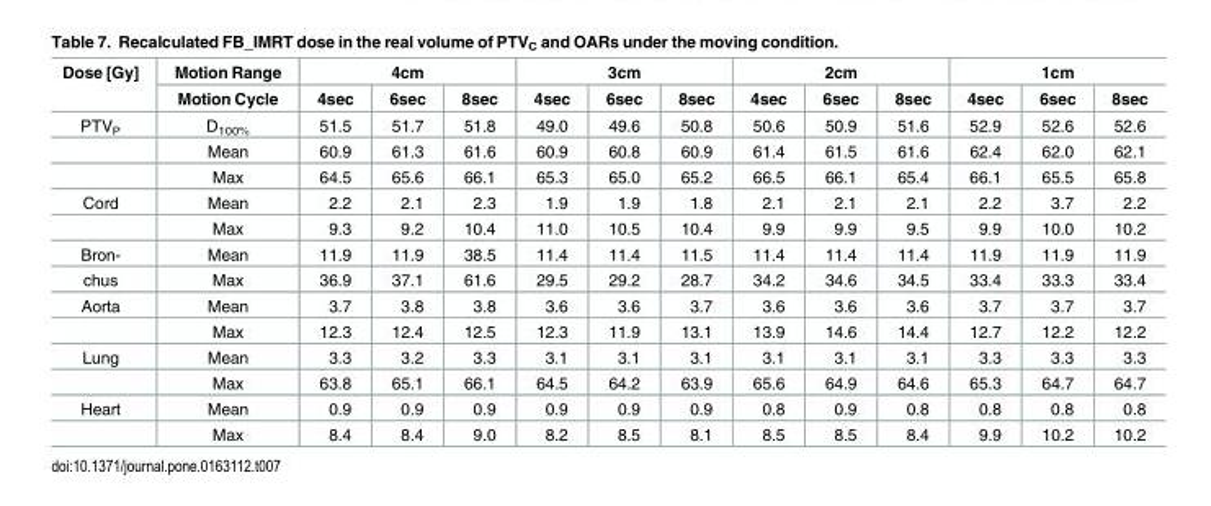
<table><thead><tr><td rowspan="2">Dose [Gy]</td><td rowspan="2">Motion Range Motion Cycle</td><td colspan="3">4cm</td><td colspan="3">3cm</td><td colspan="3">2cm</td><td colspan="3">1cm</td></tr><tr><td>4sec</td><td>6sec</td><td>8sec</td><td>4sec</td><td>6sec</td><td>8sec</td><td>4sec</td><td>6sec</td><td>8sec</td><td>4sec</td><td>6sec</td><td>8sec</td></tr></thead><tbody><tr><td rowspan="3">PTV<sub>P</sub></td><td>D<sub>100%</sub></td><td>51.5</td><td>51.7</td><td>51.8</td><td>49.0</td><td>49.6</td><td>50.8</td><td>50.6</td><td>50.9</td><td>51.6</td><td>52.9</td><td>52.6</td><td>52.6</td></tr><tr><td>Mean</td><td>60.9</td><td>61.3</td><td>61.6</td><td>60.9</td><td>60.8</td><td>60.9</td><td>61.4</td><td>61.5</td><td>61.6</td><td>62.4</td><td>62.0</td><td>62.1</td></tr><tr><td>Max</td><td>64.5</td><td>65.6</td><td>66.1</td><td>65.3</td><td>65.0</td><td>65.2</td><td>66.5</td><td>66.1</td><td>65.4</td><td>66.1</td><td>65.5</td><td>65.8</td></tr><tr><td rowspan="2">Cord</td><td>Mean</td><td>2.2</td><td>2.1</td><td>2.3</td><td>1.9</td><td>1.9</td><td>1.8</td><td>2.1</td><td>2.1</td><td>2.1</td><td>2.2</td><td>3.7</td><td>2.2</td></tr><tr><td>Max</td><td>9.3</td><td>9.2</td><td>10.4</td><td>11.0</td><td>10.5</td><td>10.4</td><td>9.9</td><td>9.9</td><td>9.5</td><td>9.9</td><td>10.0</td><td>10.2</td></tr><tr><td>Bron-</td><td>Mean</td><td>11.9</td><td>11.9</td><td>38.5</td><td>11.4</td><td>11.4</td><td>11.5</td><td>11.4</td><td>11.4</td><td>11.4</td><td>11.9</td><td>11.9</td><td>11.9</td></tr><tr><td>chus</td><td>Max</td><td>36.9</td><td>37.1</td><td>61.6</td><td>29.5</td><td>29.2</td><td>28.7</td><td>34.2</td><td>34.6</td><td>34.5</td><td>33.4</td><td>33.3</td><td>33.4</td></tr><tr><td rowspan="2">Aorta</td><td>Mean</td><td>3.7</td><td>3.8</td><td>3.8</td><td>3.6</td><td>3.6</td><td>3.7</td><td>3.6</td><td>3.6</td><td>3.6</td><td>3.7</td><td>3.7</td><td>3.7</td></tr><tr><td>Max</td><td>12.3</td><td>12.4</td><td>12.5</td><td>12.3</td><td>11.9</td><td>13.1</td><td>13.9</td><td>14.6</td><td>14.4</td><td>12.7</td><td>12.2</td><td>12.2</td></tr><tr><td rowspan="2">Lung</td><td>Mean</td><td>3.3</td><td>3.2</td><td>3.3</td><td>3.1</td><td>3.1</td><td>3.1</td><td>3.1</td><td>3.1</td><td>3.1</td><td>3.3</td><td>3.3</td><td>3.3</td></tr><tr><td>Max</td><td>63.8</td><td>65.1</td><td>66.1</td><td>64.5</td><td>64.2</td><td>63.9</td><td>65.6</td><td>64.9</td><td>64.6</td><td>65.3</td><td>64.7</td><td>64.7</td></tr><tr><td rowspan="2">Heart</td><td>Mean</td><td>0.9</td><td>0.9</td><td>0.9</td><td>0.9</td><td>0.9</td><td>0.9</td><td>0.8</td><td>0.9</td><td>0.8</td><td>0.8</td><td>0.8</td><td>0.8</td></tr><tr><td>Max</td><td>8.4</td><td>8.4</td><td>9.0</td><td>8.2</td><td>8.5</td><td>8.1</td><td>8.5</td><td>8.5</td><td>8.4</td><td>9.9</td><td>10.2</td><td>10.2</td></tr></tbody></table>